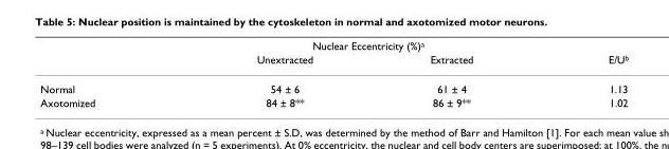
<table><thead><tr><td rowspan="2"></td><td colspan="2">Nuclear Eccentricity (%)a</td><td rowspan="2">E/Ub</td></tr><tr><td>Unextracted</td><td>Extracted</td></tr></thead><tbody><tr><td>Normal</td><td>54 ± 6</td><td>61 ± 4</td><td>1.13</td></tr><tr><td>Axotomized</td><td>84 ± 8**</td><td>86 ± 9**</td><td>1.02</td></tr></tbody></table>